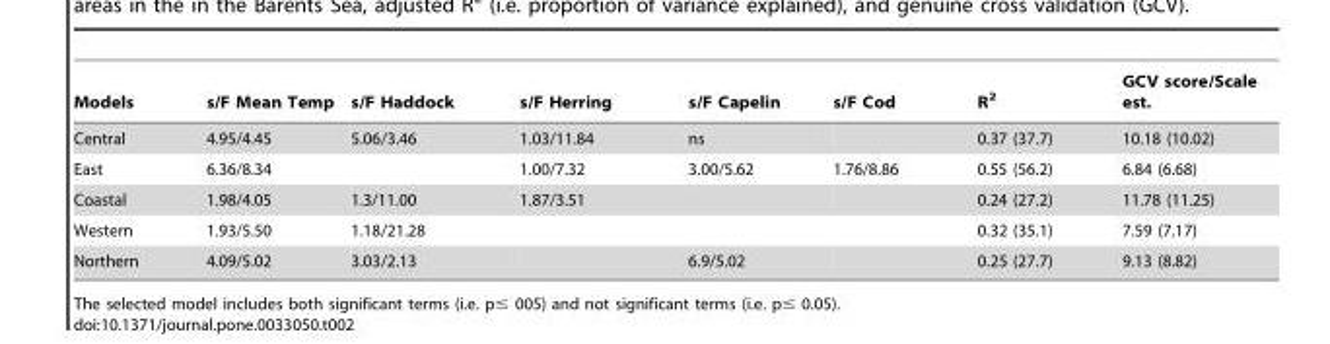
<table><thead><tr><td>Models</td><td>s/F Mean Temp</td><td>s/F Haddock</td><td>s/F Herring</td><td>s/F Capelin</td><td>s/F Cod</td><td>R<sup>2</sup></td><td>GCV score/Scale est.</td></tr></thead><tbody><tr><td>Central</td><td>4.95/4.45</td><td>5.06/3.46</td><td>1.03/11.84</td><td>ns</td><td></td><td>0.37 (37.7)</td><td>10.18 (10.02)</td></tr><tr><td>East</td><td>6.36/8.34</td><td></td><td>1.00/7.32</td><td>3.00/5.62</td><td>1.76/8.86</td><td>0.55 (56.2)</td><td>6.84 (6.68)</td></tr><tr><td>Coastal</td><td>1.98/4.05</td><td>1.3/11.00</td><td>1.87/3.51</td><td></td><td></td><td>0.24 (27.2)</td><td>11.78 (11.25)</td></tr><tr><td>Western</td><td>1.93/5.50</td><td>1.18/21.28</td><td></td><td></td><td></td><td>0.32 (35.1)</td><td>7.59 (7.17)</td></tr><tr><td>Northern</td><td>4.09/5.02</td><td>3.03/2.13</td><td></td><td>6.9/5.02</td><td></td><td>0.25 (27.7)</td><td>9.13 (8.82)</td></tr></tbody></table>